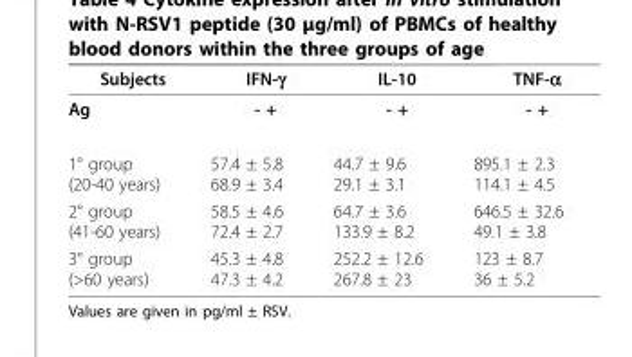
<table><thead><tr><td>Subjects</td><td>IFN-γ</td><td>IL-10</td><td>TNF-α</td></tr></thead><tbody><tr><td>Ag</td><td>- +</td><td>- +</td><td>- +</td></tr><tr><td>1° group (20-40 years)</td><td>57.4 ± 5.8 68.9 ± 3.4</td><td>44.7 ± 9.6 29.1 ± 3.1</td><td>895.1 ± 2.3 114.1 ± 4.5</td></tr><tr><td>2° group (41-60 years)</td><td>58.5 ± 4.6 72.4 ± 2.7</td><td>64.7 ± 3.6 133.9 ± 8.2</td><td>646.5 ± 32.6 49.1 ± 3.8</td></tr><tr><td>3° group (&gt;60 years)</td><td>45.3 ± 4.8 47.3 ± 4.2</td><td>252.2 ± 12.6 267.8 ± 23</td><td>123 ± 8.7 36 ± 5.2</td></tr></tbody></table>